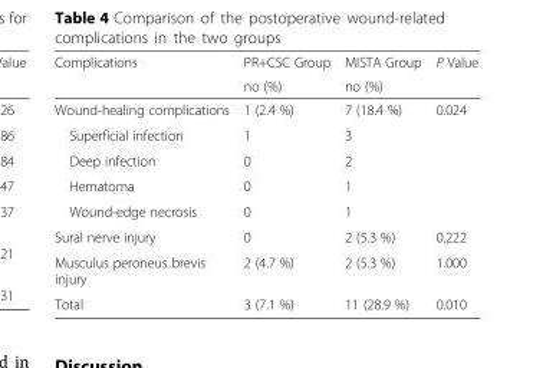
<table><thead><tr><td rowspan="2">Complications</td><td rowspan="2">PR+CSC Group no (%)</td><td rowspan="2">MISTA Group no (%)</td><td rowspan="2">P Value</td></tr><tr></tr></thead><tbody><tr><td>Wound-healing complications</td><td>1 (2.4 %)</td><td>7 (18.4 %)</td><td rowspan="5">0.024</td></tr><tr><td>Superficial infection</td><td>1</td><td>3</td></tr><tr><td>Deep infection</td><td>0</td><td>2</td></tr><tr><td>Hematoma</td><td>0</td><td>1</td></tr><tr><td>Wound-edge necrosis</td><td>0</td><td>1</td></tr><tr><td>Sural nerve injury</td><td>0</td><td>2 (5.3 %)</td><td>0.222</td></tr><tr><td>Musculus peroneus brevis injury</td><td>2 (4.7 %)</td><td>2 (5.3 %)</td><td>1.000</td></tr><tr><td>Total</td><td>3 (7.1 %)</td><td>11 (28.9 %)</td><td>0.010</td></tr></tbody></table>